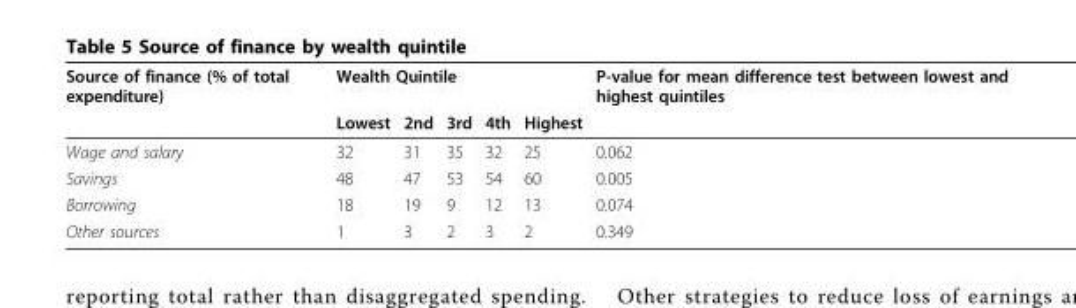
<table><tbody><tr><td rowspan="2">Source of finance (% of total expenditure)</td><td colspan="5">Wealth Quintile</td><td>P-value for mean difference test between lowest and highest quintiles</td></tr><tr><td>Lowest</td><td>2nd</td><td>3rd</td><td>4th</td><td>Highest</td><td></td></tr><tr><td>Wage and salary</td><td>32</td><td>31</td><td>35</td><td>32</td><td>25</td><td>0.062</td></tr><tr><td>Savings</td><td>48</td><td>47</td><td>53</td><td>54</td><td>60</td><td>0.005</td></tr><tr><td>Borrowing</td><td>18</td><td>19</td><td>9</td><td>12</td><td>13</td><td>0.074</td></tr><tr><td>Other sources</td><td>1</td><td>3</td><td>2</td><td>3</td><td>2</td><td>0.349</td></tr></tbody></table>